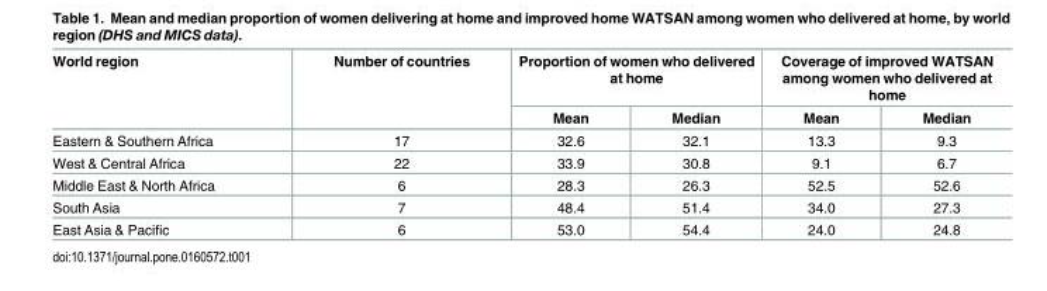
<table><thead><tr><td rowspan="2">World region</td><td rowspan="2">Number of countries</td><td colspan="2">Proportion of women who delivered at home</td><td colspan="2">Coverage of improved WATSAN among women who delivered at home</td></tr><tr><td>Mean</td><td>Median</td><td>Mean</td><td>Median</td></tr></thead><tbody><tr><td>Eastern &amp; Southern Africa</td><td>17</td><td>32.6</td><td>32.1</td><td>13.3</td><td>9.3</td></tr><tr><td>West &amp; Central Africa</td><td>22</td><td>33.9</td><td>30.8</td><td>9.1</td><td>6.7</td></tr><tr><td>Middle East &amp; North Africa</td><td>6</td><td>28.3</td><td>26.3</td><td>52.5</td><td>52.6</td></tr><tr><td>South Asia</td><td>7</td><td>48.4</td><td>51.4</td><td>34.0</td><td>27.3</td></tr><tr><td>East Asia &amp; Pacific</td><td>6</td><td>53.0</td><td>54.4</td><td>24.0</td><td>24.8</td></tr></tbody></table>